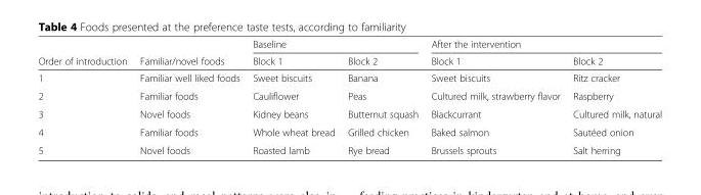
<table><thead><tr><td rowspan="2">Order of introduction</td><td rowspan="2">Familiar/novel foods</td><td colspan="2">Baseline</td><td colspan="2">After the intervention</td></tr><tr><td>Block 1</td><td>Block 2</td><td>Block 1</td><td>Block 2</td></tr></thead><tbody><tr><td>1</td><td>Familiar well liked foods</td><td>Sweet biscuits</td><td>Banana</td><td>Sweet biscuits</td><td>Ritz cracker</td></tr><tr><td>2</td><td>Familiar foods</td><td>Cauliflower</td><td>Peas</td><td>Cultured milk, strawberry flavor</td><td>Raspberry</td></tr><tr><td>3</td><td>Novel foods</td><td>Kidney beans</td><td>Butternut squash</td><td>Blackcurrant</td><td>Cultured milk, natural</td></tr><tr><td>4</td><td>Familiar foods</td><td>Whole wheat bread</td><td>Grilled chicken</td><td>Baked salmon</td><td>Sautéed onion</td></tr><tr><td>5</td><td>Novel foods</td><td>Roasted lamb</td><td>Rye bread</td><td>Brussels sprouts</td><td>Salt herring</td></tr></tbody></table>